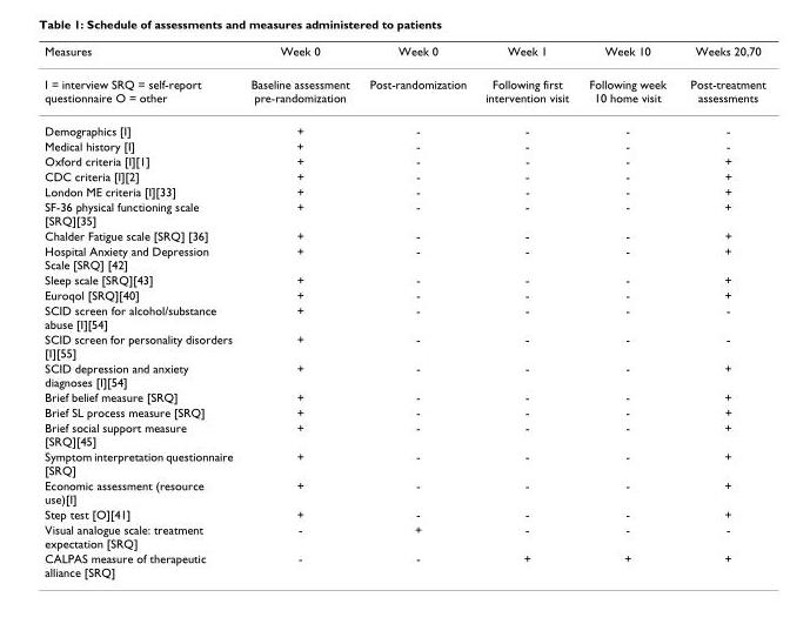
<table><thead><tr><td>Measures</td><td>Week 0</td><td>Week 0</td><td>Week 1</td><td>Week 10</td><td>Weeks 20,70</td></tr></thead><tbody><tr><td>I = interview SRQ = self-report questionnaire O = other</td><td>Baseline assessment pre-randomization</td><td>Post-randomization</td><td>Following first intervention visit</td><td>Following week 10 home visit</td><td>Post-treatment assessments</td></tr><tr><td>Demographics [I]</td><td>+</td><td>-</td><td>-</td><td>-</td><td>-</td></tr><tr><td>Medical history [I]</td><td>+</td><td>-</td><td>-</td><td>-</td><td>-</td></tr><tr><td>Oxford criteria [I][1]</td><td>+</td><td>-</td><td>-</td><td>-</td><td>+</td></tr><tr><td>CDC criteria [I][2]</td><td>+</td><td>-</td><td>-</td><td>-</td><td>+</td></tr><tr><td>London ME criteria [I][33]</td><td>+</td><td>-</td><td>-</td><td>-</td><td>+</td></tr><tr><td>SF-36 physical functioning scale [SRQ][35]</td><td>+</td><td>-</td><td>-</td><td>-</td><td>+</td></tr><tr><td>Chalder Fatigue scale [SRQ] [36]</td><td>+</td><td>-</td><td>-</td><td>-</td><td>+</td></tr><tr><td>Hospital Anxiety and Depression Scale [SRQ] [42]</td><td>+</td><td>-</td><td>-</td><td>-</td><td>+</td></tr><tr><td>Sleep scale [SRQ][43]</td><td>+</td><td>-</td><td>-</td><td>-</td><td>+</td></tr><tr><td>Euroqol [SRQ][40]</td><td>+</td><td>-</td><td>-</td><td>-</td><td>+</td></tr><tr><td>SCID screen for alcohol/substance abuse [I][54]</td><td>+</td><td>-</td><td>-</td><td>-</td><td>-</td></tr><tr><td>SCID screen for personality disorders [I][55]</td><td>+</td><td>-</td><td>-</td><td>-</td><td>-</td></tr><tr><td>SCID depression and anxiety diagnoses [I][54]</td><td>+</td><td>-</td><td>-</td><td>-</td><td>+</td></tr><tr><td>Brief belief measure [SRQ]</td><td>+</td><td>-</td><td>-</td><td>-</td><td>+</td></tr><tr><td>Brief SL process measure [SRQ]</td><td>+</td><td>-</td><td>-</td><td>-</td><td>+</td></tr><tr><td>Brief social support measure [SRQ][45]</td><td>+</td><td>-</td><td>-</td><td>-</td><td>+</td></tr><tr><td>Symptom interpretation questionnaire [SRQ]</td><td>+</td><td>-</td><td>-</td><td>-</td><td>+</td></tr><tr><td>Economic assessment (resource use)[I]</td><td>+</td><td>-</td><td>-</td><td>-</td><td>+</td></tr><tr><td>Step test [O][41]</td><td>+</td><td>-</td><td>-</td><td>-</td><td>+</td></tr><tr><td>Visual analogue scale: treatment expectation [SRQ]</td><td>-</td><td>+</td><td>-</td><td>-</td><td>-</td></tr><tr><td>CALPAS measure of therapeutic alliance [SRQ]</td><td>-</td><td>-</td><td>+</td><td>+</td><td>+</td></tr></tbody></table>